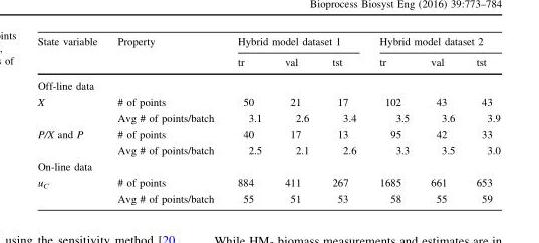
<table><thead><tr><td rowspan="2">State variable</td><td rowspan="2">Property</td><td colspan="3">Hybrid model dataset 1</td><td colspan="3">Hybrid model dataset 2</td></tr><tr><td>tr</td><td>val</td><td>tst</td><td>tr</td><td>val</td><td>tst</td></tr></thead><tbody><tr><td colspan="8">Off-line data</td></tr><tr><td rowspan="2">X</td><td># of points</td><td>50</td><td>21</td><td>17</td><td>102</td><td>43</td><td>43</td></tr><tr><td>Avg # of points/batch</td><td>3.1</td><td>2.6</td><td>3.4</td><td>3.5</td><td>3.6</td><td>3.9</td></tr><tr><td rowspan="2">P/X and P</td><td># of points</td><td>40</td><td>17</td><td>13</td><td>95</td><td>42</td><td>33</td></tr><tr><td>Avg # of points/batch</td><td>2.5</td><td>2.1</td><td>2.6</td><td>3.3</td><td>3.5</td><td>3.0</td></tr><tr><td colspan="8">On-line data</td></tr><tr><td rowspan="2">u<sub>C</sub></td><td># of points</td><td>884</td><td>411</td><td>267</td><td>1685</td><td>661</td><td>653</td></tr><tr><td>Avg # of points/batch</td><td>55</td><td>51</td><td>53</td><td>58</td><td>55</td><td>59</td></tr></tbody></table>